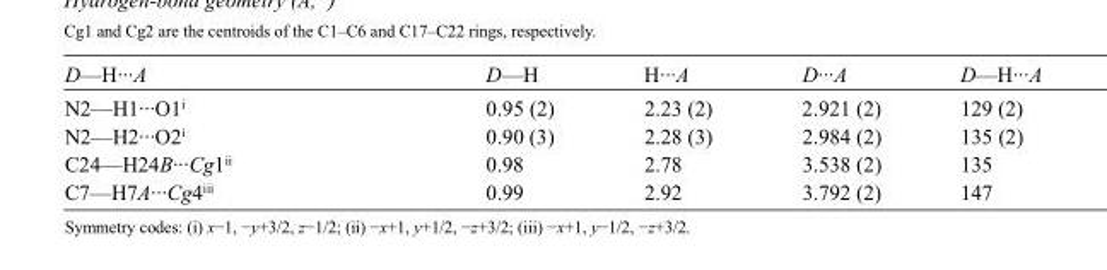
<table><tbody><tr><td>D—H···A</td><td>D—H</td><td>H···A</td><td>D···A</td><td>D—H···A</td></tr><tr><td>N2—H1···O1<sup>i</sup></td><td>0.95 (2)</td><td>2.23 (2)</td><td>2.921 (2)</td><td>129 (2)</td></tr><tr><td>N2—H2···O2<sup>i</sup></td><td>0.90 (3)</td><td>2.28 (3)</td><td>2.984 (2)</td><td>135 (2)</td></tr><tr><td>C24—H24B···Cg1<sup>ii</sup></td><td>0.98</td><td>2.78</td><td>3.538 (2)</td><td>135</td></tr><tr><td>C7—H7A···Cg4<sup>iii</sup></td><td>0.99</td><td>2.92</td><td>3.792 (2)</td><td>147</td></tr></tbody></table>